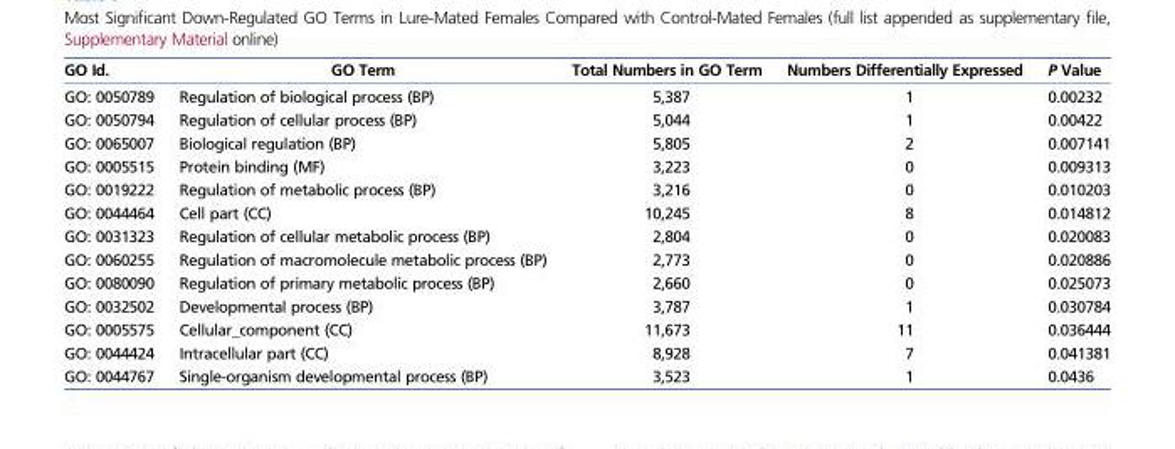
<table><thead><tr><td>GO Id.</td><td>GO Term</td><td>Total Numbers in GO Term</td><td>Numbers Differentially Expressed</td><td>P Value</td></tr></thead><tbody><tr><td>GO: 0050789</td><td>Regulation of biological process (BP)</td><td>5,387</td><td>1</td><td>0.00232</td></tr><tr><td>GO: 0050794</td><td>Regulation of cellular process (BP)</td><td>5,044</td><td>1</td><td>0.00422</td></tr><tr><td>GO: 0065007</td><td>Biological regulation (BP)</td><td>5,805</td><td>2</td><td>0.007141</td></tr><tr><td>GO: 0005515</td><td>Protein binding (MF)</td><td>3,223</td><td>0</td><td>0.009313</td></tr><tr><td>GO: 0019222</td><td>Regulation of metabolic process (BP)</td><td>3,216</td><td>0</td><td>0.010203</td></tr><tr><td>GO: 0044464</td><td>Cell part (CC)</td><td>10,245</td><td>8</td><td>0.014812</td></tr><tr><td>GO: 0031323</td><td>Regulation of cellular metabolic process (BP)</td><td>2,804</td><td>0</td><td>0.020083</td></tr><tr><td>GO: 0060255</td><td>Regulation of macromolecule metabolic process (BP)</td><td>2,773</td><td>0</td><td>0.020886</td></tr><tr><td>GO: 0080090</td><td>Regulation of primary metabolic process (BP)</td><td>2,660</td><td>0</td><td>0.025073</td></tr><tr><td>GO: 0032502</td><td>Developmental process (BP)</td><td>3,787</td><td>1</td><td>0.030784</td></tr><tr><td>GO: 0005575</td><td>Cellular_component (CC)</td><td>11,673</td><td>11</td><td>0.036444</td></tr><tr><td>GO: 0044424</td><td>Intracellular part (CC)</td><td>8,928</td><td>7</td><td>0.041381</td></tr><tr><td>GO: 0044767</td><td>Single-organism developmental process (BP)</td><td>3,523</td><td>1</td><td>0.0436</td></tr></tbody></table>